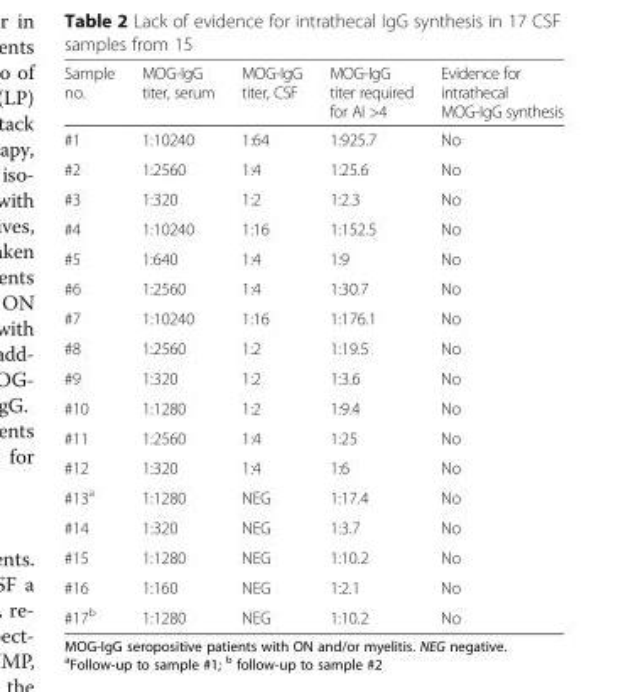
<table><thead><tr><td>Sample no.</td><td>MOG-IgG titer, serum</td><td>MOG-IgG titer, CSF</td><td>MOG-IgG titer required for AI &gt;4</td><td>Evidence for intrathecal MOG-IgG synthesis</td></tr></thead><tbody><tr><td>#1</td><td>1:10240</td><td>1:64</td><td>1:925.7</td><td>No</td></tr><tr><td>#2</td><td>1:2560</td><td>1:4</td><td>1:25.6</td><td>No</td></tr><tr><td>#3</td><td>1:320</td><td>1:2</td><td>1:2.3</td><td>No</td></tr><tr><td>#4</td><td>1:10240</td><td>1:16</td><td>1:152.5</td><td>No</td></tr><tr><td>#5</td><td>1:640</td><td>1:4</td><td>1:9</td><td>No</td></tr><tr><td>#6</td><td>1:2560</td><td>1:4</td><td>1:30.7</td><td>No</td></tr><tr><td>#7</td><td>1:10240</td><td>1:16</td><td>1:176.1</td><td>No</td></tr><tr><td>#8</td><td>1:2560</td><td>1:2</td><td>1:19.5</td><td>No</td></tr><tr><td>#9</td><td>1:320</td><td>1:2</td><td>1:3.6</td><td>No</td></tr><tr><td>#10</td><td>1:1280</td><td>1:2</td><td>1:9.4</td><td>No</td></tr><tr><td>#11</td><td>1:2560</td><td>1:4</td><td>1:25</td><td>No</td></tr><tr><td>#12</td><td>1:320</td><td>1:4</td><td>1:6</td><td>No</td></tr><tr><td>#13<sup>a</sup></td><td>1:1280</td><td>NEG</td><td>1:17.4</td><td>No</td></tr><tr><td>#14</td><td>1:320</td><td>NEG</td><td>1:3.7</td><td>No</td></tr><tr><td>#15</td><td>1:1280</td><td>NEG</td><td>1:10.2</td><td>No</td></tr><tr><td>#16</td><td>1:160</td><td>NEG</td><td>1:2.1</td><td>No</td></tr><tr><td>#17<sup>b</sup></td><td>1:1280</td><td>NEG</td><td>1:10.2</td><td>No</td></tr></tbody></table>